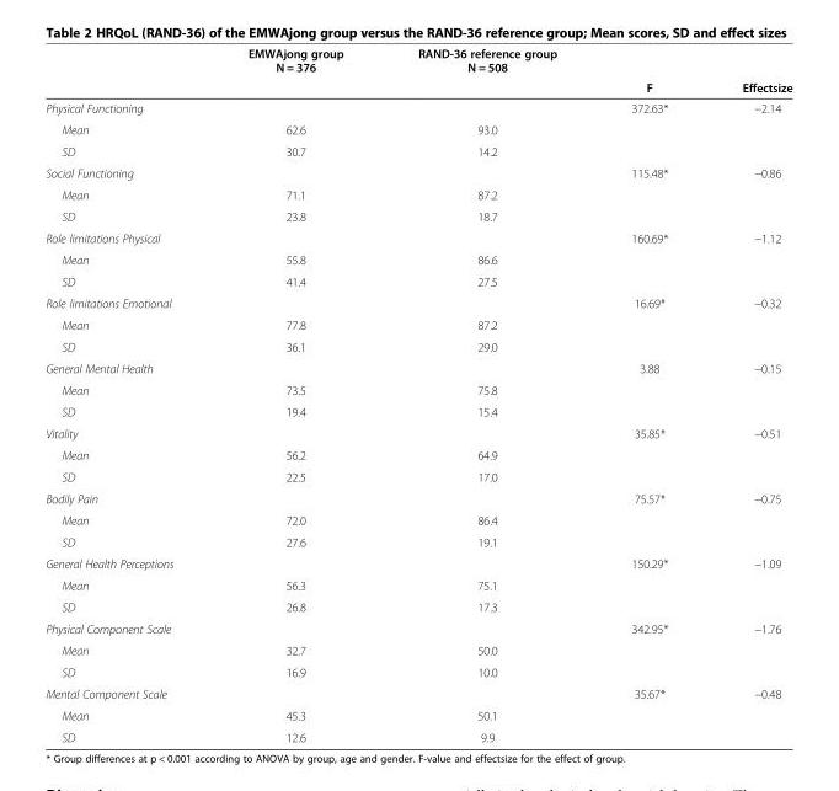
<table><thead><tr><td rowspan="2"></td><td rowspan="2">EMWAjong group N = 376</td><td rowspan="2">RAND-36 reference group N = 508</td><td rowspan="2">F</td><td rowspan="2">Effectsize</td></tr><tr></tr></thead><tbody><tr><td>Physical Functioning</td><td></td><td></td><td>372.63*</td><td>−2.14</td></tr><tr><td>Mean</td><td>62.6</td><td>93.0</td><td></td><td></td></tr><tr><td>SD</td><td>30.7</td><td>14.2</td><td></td><td></td></tr><tr><td>Social Functioning</td><td></td><td></td><td>115.48*</td><td>−0.86</td></tr><tr><td>Mean</td><td>71.1</td><td>87.2</td><td></td><td></td></tr><tr><td>SD</td><td>23.8</td><td>18.7</td><td></td><td></td></tr><tr><td>Role limitations Physical</td><td></td><td></td><td>160.69*</td><td>−1.12</td></tr><tr><td>Mean</td><td>55.8</td><td>86.6</td><td></td><td></td></tr><tr><td>SD</td><td>41.4</td><td>27.5</td><td></td><td></td></tr><tr><td>Role limitations Emotional</td><td></td><td></td><td>16.69*</td><td>−0.32</td></tr><tr><td>Mean</td><td>77.8</td><td>87.2</td><td></td><td></td></tr><tr><td>SD</td><td>36.1</td><td>29.0</td><td></td><td></td></tr><tr><td>General Mental Health</td><td></td><td></td><td>3.88</td><td>−0.15</td></tr><tr><td>Mean</td><td>73.5</td><td>75.8</td><td></td><td></td></tr><tr><td>SD</td><td>19.4</td><td>15.4</td><td></td><td></td></tr><tr><td>Vitality</td><td></td><td></td><td>35.85*</td><td>−0.51</td></tr><tr><td>Mean</td><td>56.2</td><td>64.9</td><td></td><td></td></tr><tr><td>SD</td><td>22.5</td><td>17.0</td><td></td><td></td></tr><tr><td>Bodily Pain</td><td></td><td></td><td>75.57*</td><td>−0.75</td></tr><tr><td>Mean</td><td>72.0</td><td>86.4</td><td></td><td></td></tr><tr><td>SD</td><td>27.6</td><td>19.1</td><td></td><td></td></tr><tr><td>General Health Perceptions</td><td></td><td></td><td>150.29*</td><td>−1.09</td></tr><tr><td>Mean</td><td>56.3</td><td>75.1</td><td></td><td></td></tr><tr><td>SD</td><td>26.8</td><td>17.3</td><td></td><td></td></tr><tr><td>Physical Component Scale</td><td></td><td></td><td>342.95*</td><td>−1.76</td></tr><tr><td>Mean</td><td>32.7</td><td>50.0</td><td></td><td></td></tr><tr><td>SD</td><td>16.9</td><td>10.0</td><td></td><td></td></tr><tr><td>Mental Component Scale</td><td></td><td></td><td>35.67*</td><td>−0.48</td></tr><tr><td>Mean</td><td>45.3</td><td>50.1</td><td></td><td></td></tr><tr><td>SD</td><td>12.6</td><td>9.9</td><td></td><td></td></tr></tbody></table>